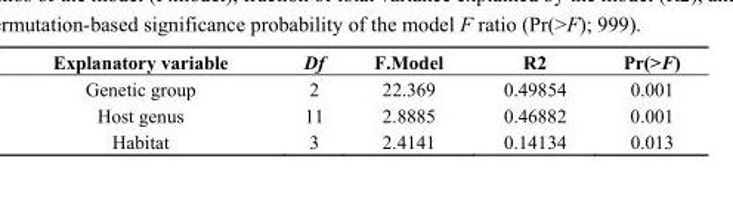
<table><thead><tr><td>Explanatory variable</td><td>Df</td><td>F.Model</td><td>R2</td><td>Pr(&gt;F)</td></tr></thead><tbody><tr><td>Genetic group</td><td>2</td><td>22.369</td><td>0.49854</td><td>0.001</td></tr><tr><td>Host genus</td><td>11</td><td>2.8885</td><td>0.46882</td><td>0.001</td></tr><tr><td>Habitat</td><td>3</td><td>2.4141</td><td>0.14134</td><td>0.013</td></tr></tbody></table>